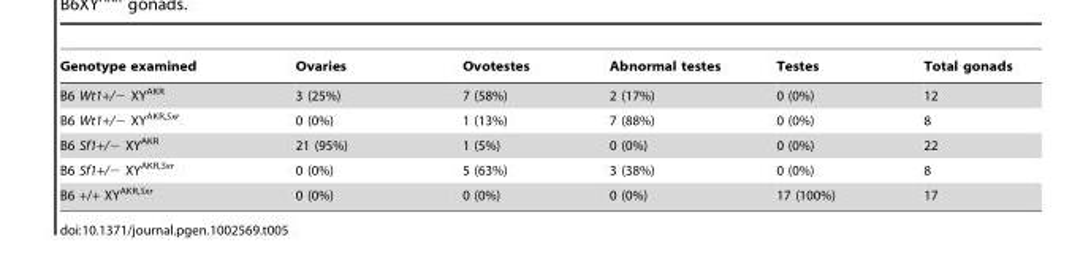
<table><thead><tr><td>Genotype examined</td><td>Ovaries</td><td>Ovotestes</td><td>Abnormal testes</td><td>Testes</td><td>Total gonads</td></tr></thead><tbody><tr><td>B6 Wt1+/− XY<sup>AKR</sup></td><td>3 (25%)</td><td>7 (58%)</td><td>2 (17%)</td><td>0 (0%)</td><td>12</td></tr><tr><td>B6 Wt1+/− XY<sup>AKR,Sxr</sup></td><td>0 (0%)</td><td>1 (13%)</td><td>7 (88%)</td><td>0 (0%)</td><td>8</td></tr><tr><td>B6 Sf1+/− XY<sup>AKR</sup></td><td>21 (95%)</td><td>1 (5%)</td><td>0 (0%)</td><td>0 (0%)</td><td>22</td></tr><tr><td>B6 Sf1+/− XY<sup>AKR,Sxr</sup></td><td>0 (0%)</td><td>5 (63%)</td><td>3 (38%)</td><td>0 (0%)</td><td>8</td></tr><tr><td>B6 +/+ XY<sup>AKR,Sxr</sup></td><td>0 (0%)</td><td>0 (0%)</td><td>0 (0%)</td><td>17 (100%)</td><td>17</td></tr></tbody></table>